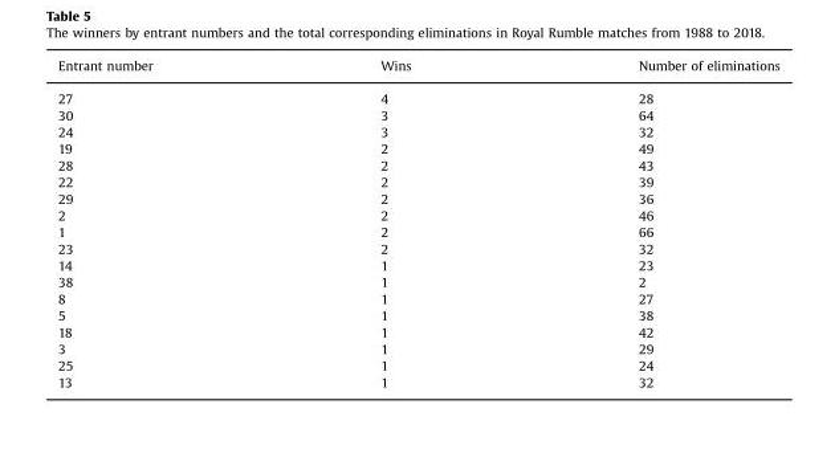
<table><thead><tr><td>Entrant number</td><td>Wins</td><td>Number of eliminations</td></tr></thead><tbody><tr><td>27</td><td>4</td><td>28</td></tr><tr><td>30</td><td>3</td><td>64</td></tr><tr><td>24</td><td>3</td><td>32</td></tr><tr><td>19</td><td>2</td><td>49</td></tr><tr><td>28</td><td>2</td><td>43</td></tr><tr><td>22</td><td>2</td><td>39</td></tr><tr><td>29</td><td>2</td><td>36</td></tr><tr><td>2</td><td>2</td><td>46</td></tr><tr><td>1</td><td>2</td><td>66</td></tr><tr><td>23</td><td>2</td><td>32</td></tr><tr><td>14</td><td>1</td><td>23</td></tr><tr><td>38</td><td>1</td><td>2</td></tr><tr><td>8</td><td>1</td><td>27</td></tr><tr><td>5</td><td>1</td><td>38</td></tr><tr><td>18</td><td>1</td><td>42</td></tr><tr><td>3</td><td>1</td><td>29</td></tr><tr><td>25</td><td>1</td><td>24</td></tr><tr><td>13</td><td>1</td><td>32</td></tr></tbody></table>